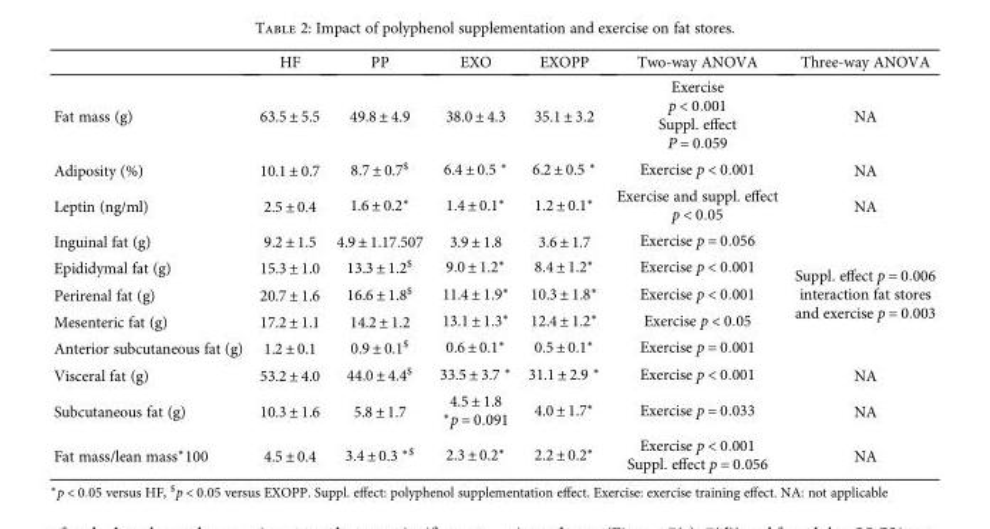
<table><thead><tr><td></td><td>HF</td><td>PP</td><td>EXO</td><td>EXOPP</td><td>Two-way ANOVA</td><td>Three-way ANOVA</td></tr></thead><tbody><tr><td>Fat mass (g)</td><td>63.5 ± 5.5</td><td>49.8 ± 4.9</td><td>38.0 ± 4.3</td><td>35.1 ± 3.2</td><td>Exercise p &lt; 0 001 Suppl. effect P = 0 059</td><td>NA</td></tr><tr><td>Adiposity (%)</td><td>10.1 ± 0.7</td><td>8.7 ± 0.7<sup>$</sup></td><td>6.4 ± 0.5 ∗</td><td>6.2 ± 0.5 ∗</td><td>Exercise p &lt; 0 001</td><td>NA</td></tr><tr><td>Leptin (ng/ml)</td><td>2.5 ± 0.4</td><td>1.6 ± 0.2∗</td><td>1.4 ± 0.1∗</td><td>1.2 ± 0.1∗</td><td>Exercise and suppl. effect p &lt; 0 05</td><td>NA</td></tr><tr><td>Inguinal fat (g)</td><td>9.2 ± 1.5</td><td>4.9 ± 1.17.507</td><td>3.9 ± 1.8</td><td>3.6 ± 1.7</td><td>Exercise p = 0 056</td><td rowspan="5">Suppl. effect p = 0 006 interaction fat stores and exercise p = 0 003</td></tr><tr><td>Epididymal fat (g)</td><td>15.3 ± 1.0</td><td>13.3 ± 1.2<sup>$</sup></td><td>9.0 ± 1.2∗</td><td>8.4 ± 1.2∗</td><td>Exercise p &lt; 0 001</td></tr><tr><td>Perirenal fat (g)</td><td>20.7 ± 1.6</td><td>16.6 ± 1.8<sup>$</sup></td><td>11.4 ± 1.9∗</td><td>10.3 ± 1.8∗</td><td>Exercise p &lt; 0 001</td></tr><tr><td>Mesenteric fat (g)</td><td>17.2 ± 1.1</td><td>14.2 ± 1.2</td><td>13.1 ± 1.3∗</td><td>12.4 ± 1.2∗</td><td>Exercise p &lt; 0 05</td></tr><tr><td>Anterior subcutaneous fat (g)</td><td>1.2 ± 0.1</td><td>0.9 ± 0.1<sup>$</sup></td><td>0.6 ± 0.1∗</td><td>0.5 ± 0.1∗</td><td>Exercise p = 0 001</td></tr><tr><td>Visceral fat (g)</td><td>53.2 ± 4.0</td><td>44.0 ± 4.4<sup>$</sup></td><td>33.5 ± 3.7 ∗</td><td>31.1 ± 2.9 ∗</td><td>Exercise p &lt; 0 001</td><td>NA</td></tr><tr><td>Subcutaneous fat (g)</td><td>10.3 ± 1.6</td><td>5.8 ± 1.7</td><td>4.5 ± 1.8 ∗p = 0 091</td><td>4.0 ± 1.7∗</td><td>Exercise p = 0 033</td><td>NA</td></tr><tr><td>Fat mass/lean mass∗100</td><td>4.5 ± 0.4</td><td>3.4 ± 0.3 <sup>∗$</sup></td><td>2.3 ± 0.2∗</td><td>2.2 ± 0.2∗</td><td>Exercise p &lt; 0 001 Suppl. effect p = 0 056</td><td>NA</td></tr></tbody></table>